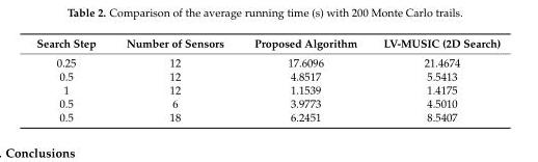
<table><thead><tr><td>Search Step</td><td>Number of Sensors</td><td>Proposed Algorithm</td><td>LV-MUSIC (2D Search)</td></tr></thead><tbody><tr><td>0.25</td><td>12</td><td>17.6096</td><td>21.4674</td></tr><tr><td>0.5</td><td>12</td><td>4.8517</td><td>5.5413</td></tr><tr><td>1</td><td>12</td><td>1.1539</td><td>1.4175</td></tr><tr><td>0.5</td><td>6</td><td>3.9773</td><td>4.5010</td></tr><tr><td>0.5</td><td>18</td><td>6.2451</td><td>8.5407</td></tr></tbody></table>